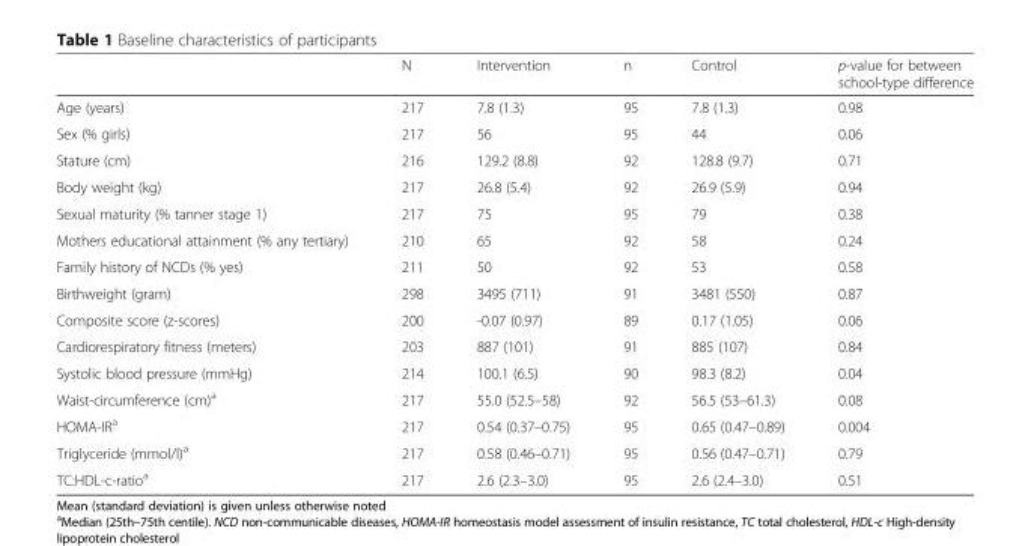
<table><thead><tr><td></td><td>N</td><td>Intervention</td><td>n</td><td>Control</td><td>p-value for between school-type difference</td></tr></thead><tbody><tr><td>Age (years)</td><td>217</td><td>7.8 (1.3)</td><td>95</td><td>7.8 (1.3)</td><td>0.98</td></tr><tr><td>Sex (% girls)</td><td>217</td><td>56</td><td>95</td><td>44</td><td>0.06</td></tr><tr><td>Stature (cm)</td><td>216</td><td>129.2 (8.8)</td><td>92</td><td>128.8 (9.7)</td><td>0.71</td></tr><tr><td>Body weight (kg)</td><td>217</td><td>26.8 (5.4)</td><td>92</td><td>26.9 (5.9)</td><td>0.94</td></tr><tr><td>Sexual maturity (% tanner stage 1)</td><td>217</td><td>75</td><td>95</td><td>79</td><td>0.38</td></tr><tr><td>Mothers educational attainment (% any tertiary)</td><td>210</td><td>65</td><td>92</td><td>58</td><td>0.24</td></tr><tr><td>Family history of NCDs (% yes)</td><td>211</td><td>50</td><td>92</td><td>53</td><td>0.58</td></tr><tr><td>Birthweight (gram)</td><td>298</td><td>3495 (711)</td><td>91</td><td>3481 (550)</td><td>0.87</td></tr><tr><td>Composite score (z-scores)</td><td>200</td><td>-0.07 (0.97)</td><td>89</td><td>0.17 (1.05)</td><td>0.06</td></tr><tr><td>Cardiorespiratory fitness (meters)</td><td>203</td><td>887 (101)</td><td>91</td><td>885 (107)</td><td>0.84</td></tr><tr><td>Systolic blood pressure (mmHg)</td><td>214</td><td>100.1 (6.5)</td><td>90</td><td>98.3 (8.2)</td><td>0.04</td></tr><tr><td>Waist-circumference (cm)<sup>a</sup></td><td>217</td><td>55.0 (52.5–58)</td><td>92</td><td>56.5 (53–61.3)</td><td>0.08</td></tr><tr><td>HOMA-IR<sup>a</sup></td><td>217</td><td>0.54 (0.37–0.75)</td><td>95</td><td>0.65 (0.47–0.89)</td><td>0.004</td></tr><tr><td>Triglyceride (mmol/l)<sup>a</sup></td><td>217</td><td>0.58 (0.46–0.71)</td><td>95</td><td>0.56 (0.47–0.71)</td><td>0.79</td></tr><tr><td>TC:HDL-c-ratio<sup>a</sup></td><td>217</td><td>2.6 (2.3–3.0)</td><td>95</td><td>2.6 (2.4–3.0)</td><td>0.51</td></tr></tbody></table>